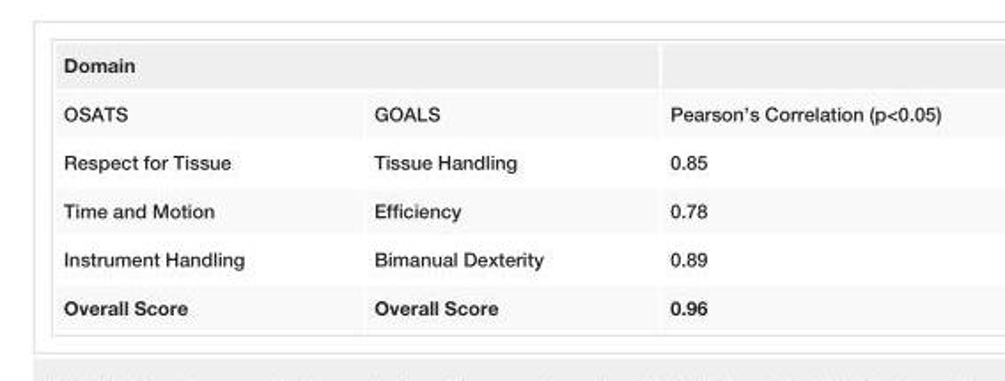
<table><tbody><tr><td colspan="3">Domain</td></tr><tr><td>OSATS</td><td>GOALS</td><td>Pearson’s Correlation (p&lt;0.05)</td></tr><tr><td>Respect for Tissue</td><td>Tissue Handling</td><td>0.85</td></tr><tr><td>Time and Motion</td><td>Efficiency</td><td>0.78</td></tr><tr><td>Instrument Handling</td><td>Bimanual Dexterity</td><td>0.89</td></tr><tr><td>Overall Score</td><td>Overall Score</td><td>0.96</td></tr></tbody></table>